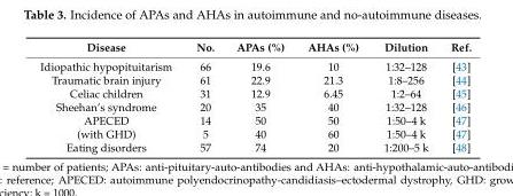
<table><thead><tr><td>Disease</td><td>No.</td><td>APAs (%)</td><td>AHAs (%)</td><td>Dilution</td><td>Ref.</td></tr></thead><tbody><tr><td>Idiopathic hypopituitarism</td><td>66</td><td>19.6</td><td>10</td><td>1:32–128</td><td>[43]</td></tr><tr><td>Traumatic brain injury</td><td>61</td><td>22.9</td><td>21.3</td><td>1:8–256</td><td>[44]</td></tr><tr><td>Celiac children</td><td>31</td><td>12.9</td><td>6.45</td><td>1:2–64</td><td>[45]</td></tr><tr><td>Sheehan’s syndrome</td><td>20</td><td>35</td><td>40</td><td>1:32–128</td><td>[46]</td></tr><tr><td>APECED</td><td>14</td><td>50</td><td>50</td><td>1:50–4 k</td><td>[47]</td></tr><tr><td>(with GHD)</td><td>5</td><td>40</td><td>60</td><td>1:50–4 k</td><td>[47]</td></tr><tr><td>Eating disorders</td><td>57</td><td>74</td><td>20</td><td>1:200–5 k</td><td>[48]</td></tr></tbody></table>